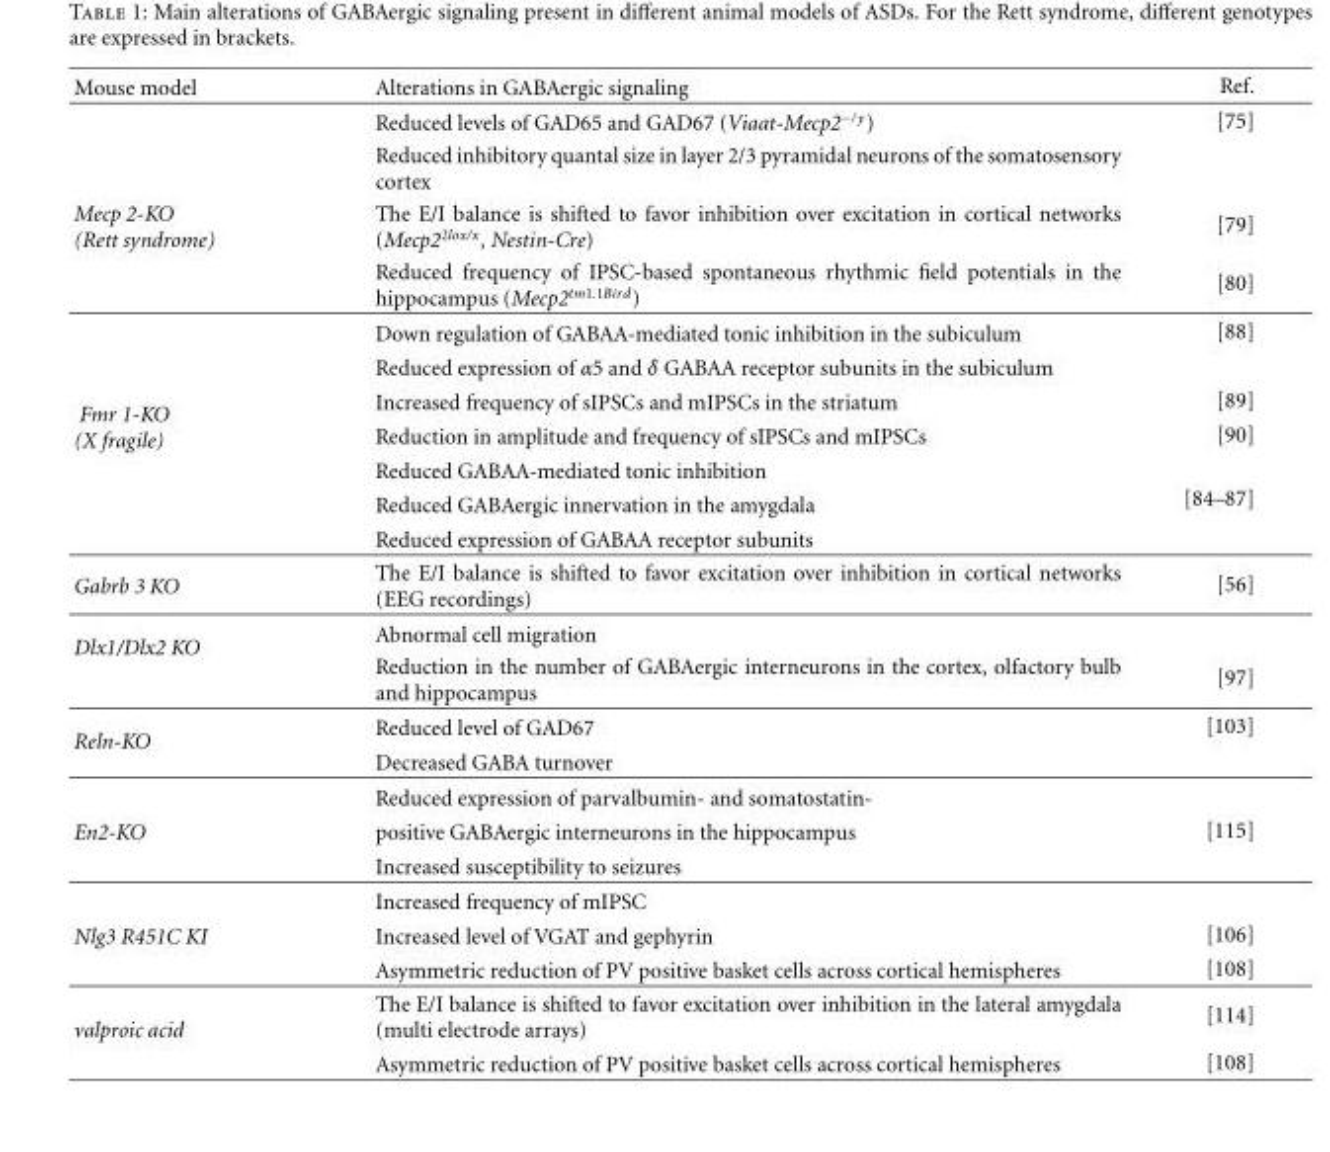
<table><thead><tr><td>Mouse model</td><td>Alterations in GABAergic signaling</td><td>Ref.</td></tr></thead><tbody><tr><td></td><td>Reduced levels of GAD65 and GAD67 (Viaat-Mecp2<sup>−/y</sup>)</td><td>[75]</td></tr><tr><td></td><td>Reduced inhibitory quantal size in layer 2/3 pyramidal neurons of the somatosensory cortex</td><td></td></tr><tr><td rowspan="2">Mecp 2-KO (Rett syndrome)</td><td>The E/I balance is shifted to favor inhibition over excitation in cortical networks (Mecp2<sup>2lox/x</sup>, Nestin-Cre)</td><td>[79]</td></tr><tr><td>Reduced frequency of IPSC-based spontaneous rhythmic field potentials in the hippocampus (Mecp2<sup>tm1.1Bird</sup>)</td><td>[80]</td></tr><tr><td rowspan="7">Fmr 1-KO (X fragile)</td><td>Down regulation of GABAA-mediated tonic inhibition in the subiculum</td><td>[88]</td></tr><tr><td>Reduced expression of α5 and δ GABAA receptor subunits in the subiculum</td><td></td></tr><tr><td>Increased frequency of sIPSCs and mIPSCs in the striatum</td><td>[89]</td></tr><tr><td>Reduction in amplitude and frequency of sIPSCs and mIPSCs</td><td>[90]</td></tr><tr><td>Reduced GABAA-mediated tonic inhibition</td><td rowspan="3">[84–87]</td></tr><tr><td>Reduced GABAergic innervation in the amygdala</td></tr><tr><td>Reduced expression of GABAA receptor subunits</td></tr><tr><td>Gabrb 3 KO</td><td>The E/I balance is shifted to favor excitation over inhibition in cortical networks (EEG recordings)</td><td>[56]</td></tr><tr><td rowspan="2">Dlx1/Dlx2 KO</td><td>Abnormal cell migration</td><td></td></tr><tr><td>Reduction in the number of GABAergic interneurons in the cortex, olfactory bulb and hippocampus</td><td>[97]</td></tr><tr><td rowspan="3">Reln-KO</td><td>Reduced level of GAD67</td><td>[103]</td></tr><tr><td>Decreased GABA turnover</td><td></td></tr><tr><td>Reduced expression of parvalbumin- and somatostatin-</td><td></td></tr><tr><td rowspan="3">En2-KO</td><td>positive GABAergic interneurons in the hippocampus</td><td>[115]</td></tr><tr><td>Increased susceptibility to seizures</td><td></td></tr><tr><td>Increased frequency of mIPSC</td><td></td></tr><tr><td rowspan="2">Nlg3 R451C KI</td><td>Increased level of VGAT and gephyrin</td><td>[106]</td></tr><tr><td>Asymmetric reduction of PV positive basket cells across cortical hemispheres</td><td>[108]</td></tr><tr><td rowspan="2">valproic acid</td><td>The E/I balance is shifted to favor excitation over inhibition in the lateral amygdala (multi electrode arrays)</td><td>[114]</td></tr><tr><td>Asymmetric reduction of PV positive basket cells across cortical hemispheres</td><td>[108]</td></tr></tbody></table>